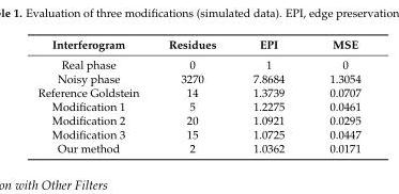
<table><thead><tr><td>Interferogram</td><td>Residues</td><td>EPI</td><td>MSE</td></tr></thead><tbody><tr><td>Real phase</td><td>0</td><td>1</td><td>0</td></tr><tr><td>Noisy phase</td><td>3270</td><td>7.8684</td><td>1.3054</td></tr><tr><td>Reference Goldstein</td><td>14</td><td>1.3739</td><td>0.0707</td></tr><tr><td>Modification 1</td><td>5</td><td>1.2275</td><td>0.0461</td></tr><tr><td>Modification 2</td><td>20</td><td>1.0921</td><td>0.0295</td></tr><tr><td>Modification 3</td><td>15</td><td>1.0725</td><td>0.0447</td></tr><tr><td>Our method</td><td>2</td><td>1.0362</td><td>0.0171</td></tr></tbody></table>